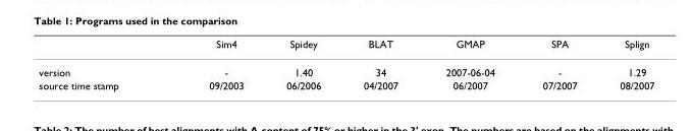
<table><thead><tr><td></td><td>Sim4</td><td>Spidey</td><td>BLAT</td><td>GMAP</td><td>SPA</td><td>Splign</td></tr></thead><tbody><tr><td>version</td><td>-</td><td>1.40</td><td>34</td><td>2007-06-04</td><td>-</td><td>1.29</td></tr><tr><td>source time stamp</td><td>09/2003</td><td>06/2006</td><td>04/2007</td><td>06/2007</td><td>07/2007</td><td>08/2007</td></tr></tbody></table>